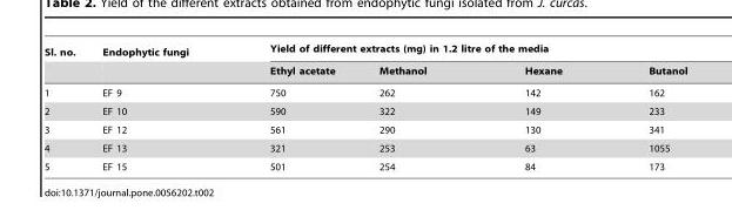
<table><thead><tr><td rowspan="2">Sl. no.</td><td rowspan="2">Endophytic fungi</td><td colspan="4">Yield of different extracts (mg) in 1.2 litre of the media</td></tr><tr><td>Ethyl acetate</td><td>Methanol</td><td>Hexane</td><td>Butanol</td></tr></thead><tbody><tr><td>1</td><td>EF 9</td><td>750</td><td>262</td><td>142</td><td>162</td></tr><tr><td>2</td><td>EF 10</td><td>590</td><td>322</td><td>149</td><td>233</td></tr><tr><td>3</td><td>EF 12</td><td>561</td><td>290</td><td>130</td><td>341</td></tr><tr><td>4</td><td>EF 13</td><td>321</td><td>253</td><td>63</td><td>1055</td></tr><tr><td>5</td><td>EF 15</td><td>501</td><td>254</td><td>84</td><td>173</td></tr></tbody></table>